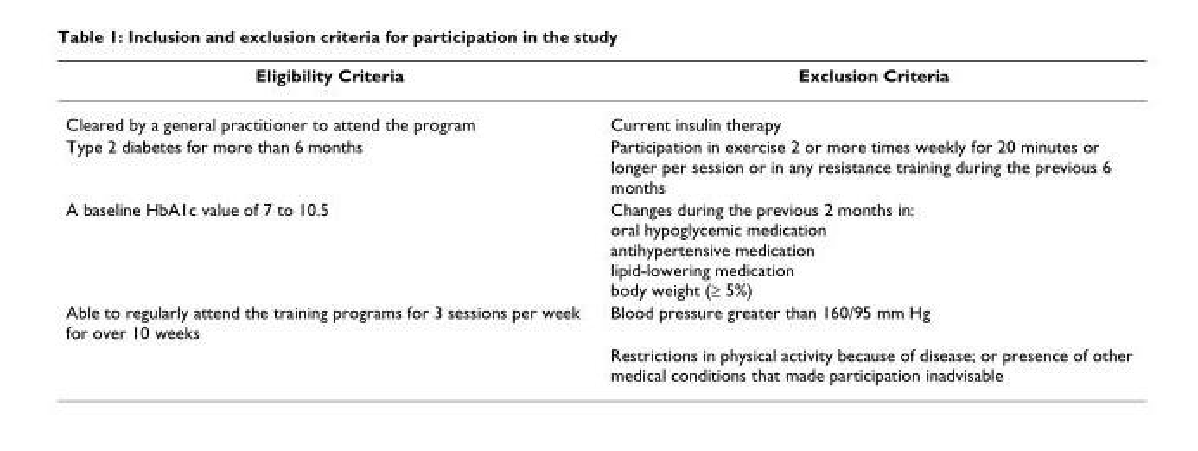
<table><thead><tr><td>Eligibility Criteria</td><td>Exclusion Criteria</td></tr></thead><tbody><tr><td>Cleared by a general practitioner to attend the program</td><td>Current insulin therapy</td></tr><tr><td>Type 2 diabetes for more than 6 months</td><td>Participation in exercise 2 or more times weekly for 20 minutes or longer per session or in any resistance training during the previous 6 months</td></tr><tr><td>A baseline HbA1c value of 7 to 10.5</td><td>Changes during the previous 2 months in: oral hypoglycemic medication antihypertensive medication lipid-lowering medication body weight (≥ 5%)</td></tr><tr><td rowspan="2">Able to regularly attend the training programs for 3 sessions per week for over 10 weeks</td><td>Blood pressure greater than 160/95 mm Hg</td></tr><tr><td>Restrictions in physical activity because of disease; or presence of other medical conditions that made participation inadvisable</td></tr></tbody></table>